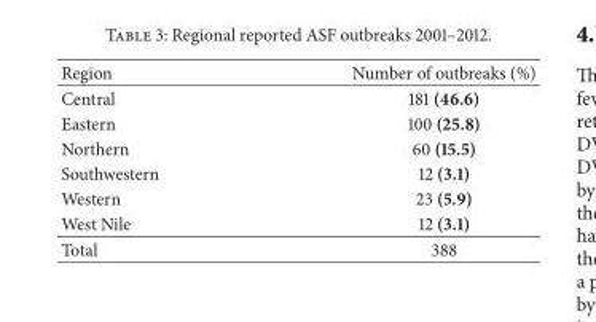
<table><thead><tr><td>Region</td><td>Number of outbreaks (%)</td></tr></thead><tbody><tr><td>Central</td><td>181 (46.6)</td></tr><tr><td>Eastern</td><td>100 (25.8)</td></tr><tr><td>Northern</td><td>60 (15.5)</td></tr><tr><td>Southwestern</td><td>12 (3.1)</td></tr><tr><td>Western</td><td>23 (5.9)</td></tr><tr><td>West Nile</td><td>12 (3.1)</td></tr><tr><td>Total</td><td>388</td></tr></tbody></table>